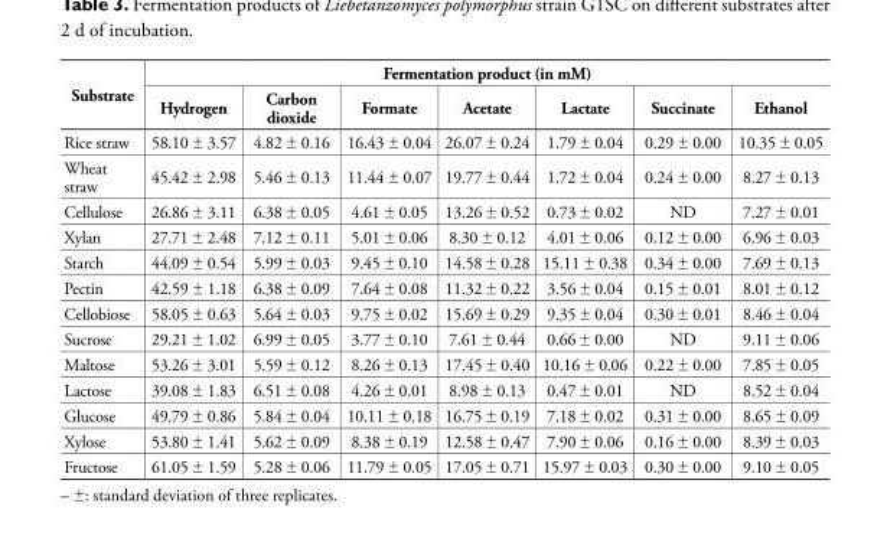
<table><tbody><tr><td rowspan="2">Substrate</td><td colspan="7">Fermentation product (in mM)</td></tr><tr><td>Hydrogen</td><td>Carbon dioxide</td><td>Formate</td><td>Acetate</td><td>Lactate</td><td>Succinate</td><td>Ethanol</td></tr><tr><td>Rice straw</td><td>58.10 ± 3.57</td><td>4.82 ± 0.16</td><td>16.43 ± 0.04</td><td>26.07 ± 0.24</td><td>1.79 ± 0.04</td><td>0.29 ± 0.00</td><td>10.35 ± 0.05</td></tr><tr><td>Wheat straw</td><td>45.42 ± 2.98</td><td>5.46 ± 0.13</td><td>11.44 ± 0.07</td><td>19.77 ± 0.44</td><td>1.72 ± 0.04</td><td>0.24 ± 0.00</td><td>8.27 ± 0.13</td></tr><tr><td>Cellulose</td><td>26.86 ± 3.11</td><td>6.38 ± 0.05</td><td>4.61 ± 0.05</td><td>13.26 ± 0.52</td><td>0.73 ± 0.02</td><td>ND</td><td>7.27 ± 0.01</td></tr><tr><td>Xylan</td><td>27.71 ± 2.48</td><td>7.12 ± 0.11</td><td>5.01 ± 0.06</td><td>8.30 ± 0.12</td><td>4.01 ± 0.06</td><td>0.12 ± 0.00</td><td>6.96 ± 0.03</td></tr><tr><td>Starch</td><td>44.09 ± 0.54</td><td>5.99 ± 0.03</td><td>9.45 ± 0.10</td><td>14.58 ± 0.28</td><td>15.11 ± 0.38</td><td>0.34 ± 0.00</td><td>7.69 ± 0.13</td></tr><tr><td>Pectin</td><td>42.59 ± 1.18</td><td>6.38 ± 0.09</td><td>7.64 ± 0.08</td><td>11.32 ± 0.22</td><td>3.56 ± 0.04</td><td>0.15 ± 0.01</td><td>8.01 ± 0.12</td></tr><tr><td>Cellobiose</td><td>58.05 ± 0.63</td><td>5.64 ± 0.03</td><td>9.75 ± 0.02</td><td>15.69 ± 0.29</td><td>9.35 ± 0.04</td><td>0.30 ± 0.01</td><td>8.46 ± 0.04</td></tr><tr><td>Sucrose</td><td>29.21 ± 1.02</td><td>6.99 ± 0.05</td><td>3.77 ± 0.10</td><td>7.61 ± 0.44</td><td>0.66 ± 0.00</td><td>ND</td><td>9.11 ± 0.06</td></tr><tr><td>Maltose</td><td>53.26 ± 3.01</td><td>5.59 ± 0.12</td><td>8.26 ± 0.13</td><td>17.45 ± 0.40</td><td>10.16 ± 0.06</td><td>0.22 ± 0.00</td><td>7.85 ± 0.05</td></tr><tr><td>Lactose</td><td>39.08 ± 1.83</td><td>6.51 ± 0.08</td><td>4.26 ± 0.01</td><td>8.98 ± 0.13</td><td>0.47 ± 0.01</td><td>ND</td><td>8.52 ± 0.04</td></tr><tr><td>Glucose</td><td>49.79 ± 0.86</td><td>5.84 ± 0.04</td><td>10.11 ± 0.18</td><td>16.75 ± 0.19</td><td>7.18 ± 0.02</td><td>0.31 ± 0.00</td><td>8.65 ± 0.09</td></tr><tr><td>Xylose</td><td>53.80 ± 1.41</td><td>5.62 ± 0.09</td><td>8.38 ± 0.19</td><td>12.58 ± 0.47</td><td>7.90 ± 0.06</td><td>0.16 ± 0.00</td><td>8.39 ± 0.03</td></tr><tr><td>Fructose</td><td>61.05 ± 1.59</td><td>5.28 ± 0.06</td><td>11.79 ± 0.05</td><td>17.05 ± 0.71</td><td>15.97 ± 0.03</td><td>0.30 ± 0.00</td><td>9.10 ± 0.05</td></tr></tbody></table>